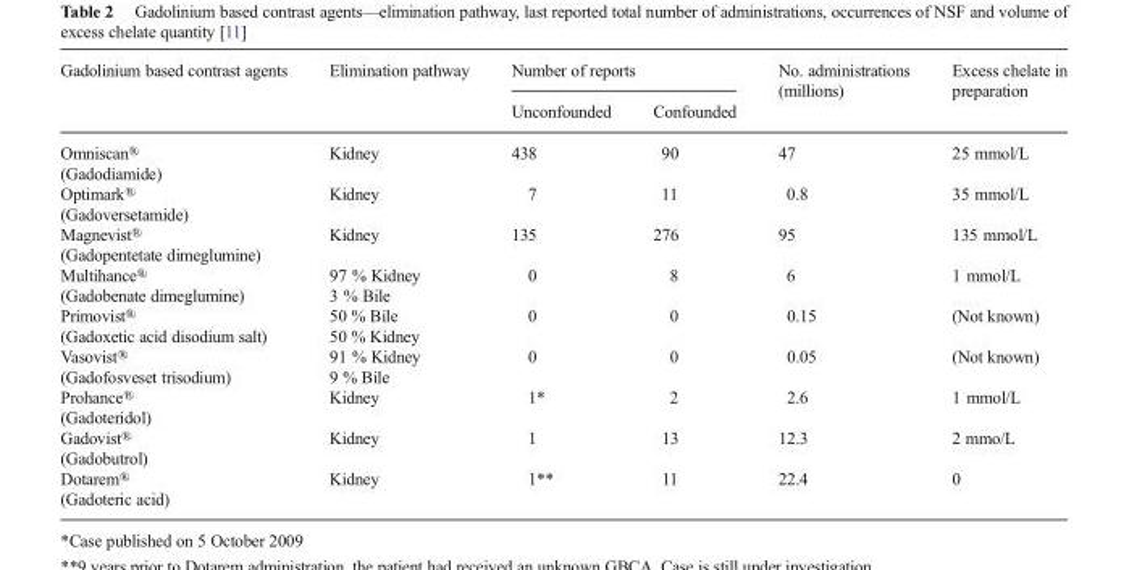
<table><thead><tr><td rowspan="2">Gadolinium based contrast agents</td><td rowspan="2">Elimination pathway</td><td colspan="2">Number of reports</td><td rowspan="2">No. administrations (millions)</td><td rowspan="2">Excess chelate in preparation</td></tr><tr><td>Unconfounded</td><td>Confounded</td></tr></thead><tbody><tr><td>Omniscan® (Gadodiamide)</td><td>Kidney</td><td>438</td><td>90</td><td>47</td><td>25 mmol/L</td></tr><tr><td>Optimark® (Gadoversetamide)</td><td>Kidney</td><td>7</td><td>11</td><td>0.8</td><td>35 mmol/L</td></tr><tr><td>Magnevist® (Gadopentetate dimeglumine)</td><td>Kidney</td><td>135</td><td>276</td><td>95</td><td>135 mmol/L</td></tr><tr><td>Multihance® (Gadobenate dimeglumine)</td><td>97 % Kidney 3 % Bile</td><td>0</td><td>8</td><td>6</td><td>1 mmol/L</td></tr><tr><td>Primovist® (Gadoxetic acid disodium salt)</td><td>50 % Bile 50 % Kidney</td><td>0</td><td>0</td><td>0.15</td><td>(Not known)</td></tr><tr><td>Vasovist® (Gadofosveset trisodium)</td><td>91 % Kidney 9 % Bile</td><td>0</td><td>0</td><td>0.05</td><td>(Not known)</td></tr><tr><td>Prohance® (Gadoteridol)</td><td>Kidney</td><td>1*</td><td>2</td><td>2.6</td><td>1 mmol/L</td></tr><tr><td>Gadovist® (Gadobutrol)</td><td>Kidney</td><td>1</td><td>13</td><td>12.3</td><td>2 mmo/L</td></tr><tr><td>Dotarem® (Gadoteric acid)</td><td>Kidney</td><td>1**</td><td>11</td><td>22.4</td><td>0</td></tr></tbody></table>